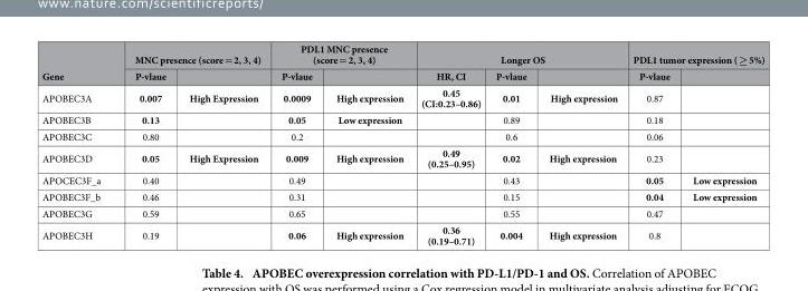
<table><thead><tr><td rowspan="2">Gene</td><td colspan="2">MNC presence (score = 2, 3, 4)</td><td colspan="2">PDL1 MNC presence (score = 2, 3, 4)</td><td colspan="3">Longer OS</td><td colspan="2">PDL1 tumor expression ( ≥ 5%)</td></tr><tr><td>P-vlaue</td><td></td><td>P-vlaue</td><td></td><td>HR, CI</td><td>P-vlaue</td><td></td><td>P-vlaue</td><td></td></tr></thead><tbody><tr><td>APOBEC3A</td><td>0.007</td><td>High Expression</td><td>0.0009</td><td>High expression</td><td>0.45 (CI:0.23–0.86)</td><td>0.01</td><td>High expression</td><td>0.87</td><td></td></tr><tr><td>APOBEC3B</td><td>0.13</td><td></td><td>0.05</td><td>Low expression</td><td></td><td>0.89</td><td></td><td>0.18</td><td></td></tr><tr><td>APOBEC3C</td><td>0.80</td><td></td><td>0.2</td><td></td><td></td><td>0.6</td><td></td><td>0.06</td><td></td></tr><tr><td>APOBEC3D</td><td>0.05</td><td>High Expression</td><td>0.009</td><td>High expression</td><td>0.49 (0.25–0.95)</td><td>0.02</td><td>High expression</td><td>0.23</td><td></td></tr><tr><td>APOCEC3F_a</td><td>0.40</td><td></td><td>0.49</td><td></td><td></td><td>0.43</td><td></td><td>0.05</td><td>Low expression</td></tr><tr><td>APOBEC3F_b</td><td>0.46</td><td></td><td>0.31</td><td></td><td></td><td>0.15</td><td></td><td>0.04</td><td>Low expression</td></tr><tr><td>APOBEC3G</td><td>0.59</td><td></td><td>0.65</td><td></td><td></td><td>0.55</td><td></td><td>0.47</td><td></td></tr><tr><td>APOBEC3H</td><td>0.19</td><td></td><td>0.06</td><td>High expression</td><td>0.36 (0.19–0.71)</td><td>0.004</td><td>High expression</td><td>0.8</td><td></td></tr></tbody></table>